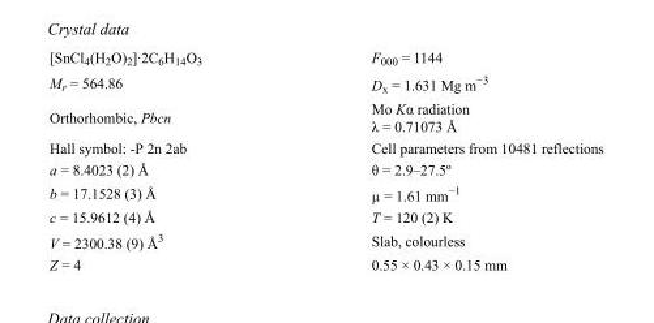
<table><tbody><tr><td>[SnCl<sub>4</sub>(H<sub>2</sub>O)<sub>2</sub>]·2C<sub>6</sub>H<sub>14</sub>O<sub>3</sub></td><td>F000 = 1144</td></tr><tr><td>M<sub>r</sub> = 564.86</td><td>D<sub>x</sub> = 1.631 Mg m<sup>−3</sup></td></tr><tr><td>Orthorhombic, Pbcn</td><td>Mo Kα radiation λ = 0.71073 Å</td></tr><tr><td>Hall symbol: -P 2n 2ab</td><td>Cell parameters from 10481 reflections</td></tr><tr><td>a = 8.4023 (2) Å</td><td>θ = 2.9–27.5º</td></tr><tr><td>b = 17.1528 (3) Å</td><td>µ = 1.61 mm<sup>−1</sup></td></tr><tr><td>c = 15.9612 (4) Å</td><td>T = 120 (2) K</td></tr><tr><td>V = 2300.38 (9) Å<sup>3</sup></td><td>Slab, colourless</td></tr><tr><td>Z = 4</td><td>0.55 × 0.43 × 0.15 mm</td></tr></tbody></table>